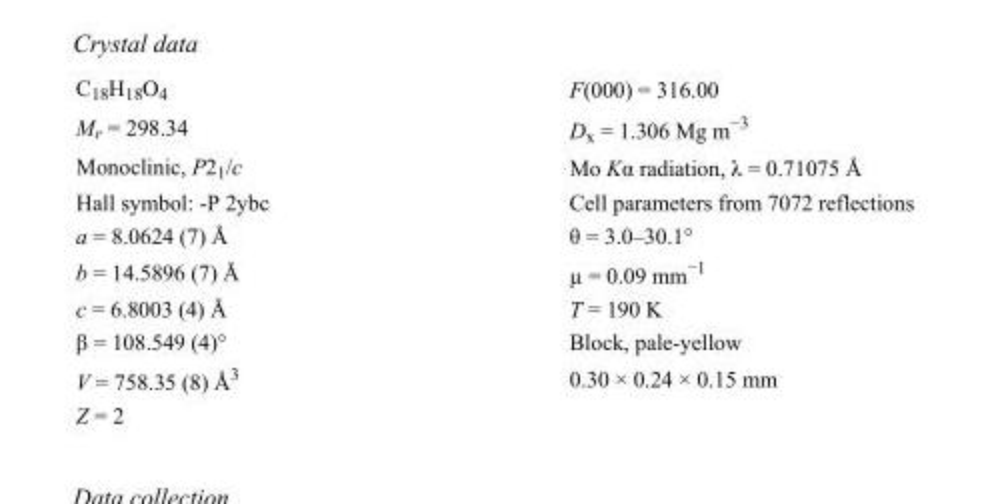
<table><tbody><tr><td>C<sub>18</sub>H<sub>18</sub>O<sub>4</sub></td><td>F(000) = 316.00</td></tr><tr><td>M<sub>r</sub> = 298.34</td><td>D<sub>x</sub> = 1.306 Mg m<sup>−3</sup></td></tr><tr><td>Monoclinic, P2<sub>1</sub>/c</td><td>Mo Kα radiation, λ = 0.71075 Å</td></tr><tr><td>Hall symbol: -P 2ybc</td><td>Cell parameters from 7072 reflections</td></tr><tr><td>a = 8.0624 (7) Å</td><td>θ = 3.0–30.1°</td></tr><tr><td>b = 14.5896 (7) Å</td><td>µ = 0.09 mm<sup>−1</sup></td></tr><tr><td>c = 6.8003 (4) Å</td><td>T = 190 K</td></tr><tr><td>β = 108.549 (4)°</td><td>Block, pale-yellow</td></tr><tr><td>V = 758.35 (8) Å<sup>3</sup></td><td>0.30 × 0.24 × 0.15 mm</td></tr><tr><td>Z = 2</td><td></td></tr></tbody></table>